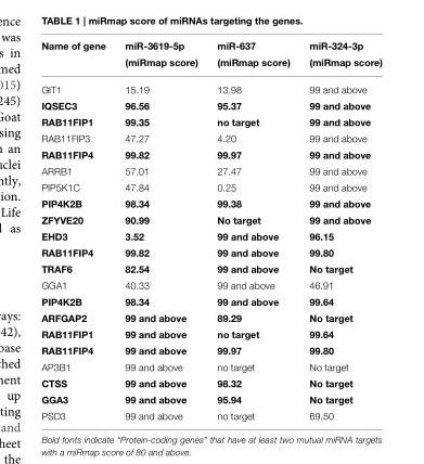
<table><thead><tr><td>Name of gene</td><td>miR-3619-5p (miRmap score)</td><td>miR-637 (miRmap score)</td><td>miR-324-3p (miRmap score)</td></tr></thead><tbody><tr><td>GIT1</td><td>15.19</td><td>13.98</td><td>99 and above</td></tr><tr><td>IQSEC3</td><td>96.56</td><td>95.37</td><td>99 and above</td></tr><tr><td>RAB11FIP1</td><td>99.35</td><td>no target</td><td>99 and above</td></tr><tr><td>RAB11FIP3</td><td>47.27</td><td>4.20</td><td>99 and above</td></tr><tr><td>RAB11FIP4</td><td>99.82</td><td>99.97</td><td>99 and above</td></tr><tr><td>ARRB1</td><td>57.01</td><td>27.47</td><td>99 and above</td></tr><tr><td>PIP5K1C</td><td>47.84</td><td>0.25</td><td>99 and above</td></tr><tr><td>PIP4K2B</td><td>98.34</td><td>99.38</td><td>99 and above</td></tr><tr><td>ZFYVE20</td><td>90.99</td><td>No target</td><td>99 and above</td></tr><tr><td>EHD3</td><td>3.52</td><td>99 and above</td><td>96.15</td></tr><tr><td>RAB11FIP4</td><td>99.82</td><td>99 and above</td><td>99.80</td></tr><tr><td>TRAF6</td><td>82.54</td><td>99 and above</td><td>No target</td></tr><tr><td>GGA1</td><td>40.33</td><td>99 and above</td><td>46.91</td></tr><tr><td>PIP4K2B</td><td>98.34</td><td>99 and above</td><td>99.64</td></tr><tr><td>ARFGAP2</td><td>99 and above</td><td>89.29</td><td>No target</td></tr><tr><td>RAB11FIP1</td><td>99 and above</td><td>no target</td><td>99.64</td></tr><tr><td>RAB11FIP4</td><td>99 and above</td><td>99.97</td><td>99.80</td></tr><tr><td>AP3B1</td><td>99 and above</td><td>no target</td><td>No target</td></tr><tr><td>CTSS</td><td>99 and above</td><td>98.32</td><td>No target</td></tr><tr><td>GGA3</td><td>99 and above</td><td>95.94</td><td>No target</td></tr><tr><td>PSD3</td><td>99 and above</td><td>no target</td><td>69.50</td></tr></tbody></table>